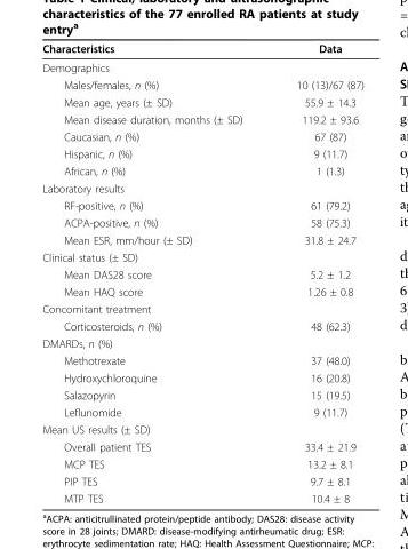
<table><thead><tr><td>Characteristics</td><td>Data</td></tr></thead><tbody><tr><td colspan="2">Demographics</td></tr><tr><td>Males/females, n (%)</td><td>10 (13)/67 (87)</td></tr><tr><td>Mean age, years (± SD)</td><td>55.9 ± 14.3</td></tr><tr><td>Mean disease duration, months (± SD)</td><td>119.2 ± 93.6</td></tr><tr><td>Caucasian, n (%)</td><td>67 (87)</td></tr><tr><td>Hispanic, n (%)</td><td>9 (11.7)</td></tr><tr><td>African, n (%)</td><td>1 (1.3)</td></tr><tr><td colspan="2">Laboratory results</td></tr><tr><td>RF-positive, n (%)</td><td>61 (79.2)</td></tr><tr><td>ACPA-positive, n (%)</td><td>58 (75.3)</td></tr><tr><td>Mean ESR, mm/hour (± SD)</td><td>31.8 ± 24.7</td></tr><tr><td colspan="2">Clinical status (± SD)</td></tr><tr><td>Mean DAS28 score</td><td>5.2 ± 1.2</td></tr><tr><td>Mean HAQ score</td><td>1.26 ± 0.8</td></tr><tr><td colspan="2">Concomitant treatment</td></tr><tr><td>Corticosteroids, n (%)</td><td>48 (62.3)</td></tr><tr><td colspan="2">DMARDs, n (%)</td></tr><tr><td>Methotrexate</td><td>37 (48.0)</td></tr><tr><td>Hydroxychloroquine</td><td>16 (20.8)</td></tr><tr><td>Salazopyrin</td><td>15 (19.5)</td></tr><tr><td>Leflunomide</td><td>9 (11.7)</td></tr><tr><td colspan="2">Mean US results (± SD)</td></tr><tr><td>Overall patient TES</td><td>33.4 ± 21.9</td></tr><tr><td>MCP TES</td><td>13.2 ± 8.1</td></tr><tr><td>PIP TES</td><td>9.7 ± 8.1</td></tr><tr><td>MTP TES</td><td>10.4 ± 8</td></tr></tbody></table>